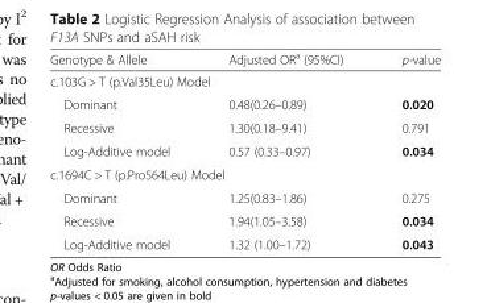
<table><thead><tr><td>Genotype &amp; Allele</td><td>Adjusted OR<sup>a</sup> (95%CI)</td><td>p-value</td></tr></thead><tbody><tr><td colspan="3">c.103G &gt; T (p.Val35Leu) Model</td></tr><tr><td>Dominant</td><td>0.48(0.26–0.89)</td><td>0.020</td></tr><tr><td>Recessive</td><td>1.30(0.18–9.41)</td><td>0.791</td></tr><tr><td>Log-Additive model</td><td>0.57 (0.33–0.97)</td><td>0.034</td></tr><tr><td colspan="3">c.1694C &gt; T (p.Pro564Leu) Model</td></tr><tr><td>Dominant</td><td>1.25(0.83–1.86)</td><td>0.275</td></tr><tr><td>Recessive</td><td>1.94(1.05–3.58)</td><td>0.034</td></tr><tr><td>Log-Additive model</td><td>1.32 (1.00–1.72)</td><td>0.043</td></tr></tbody></table>